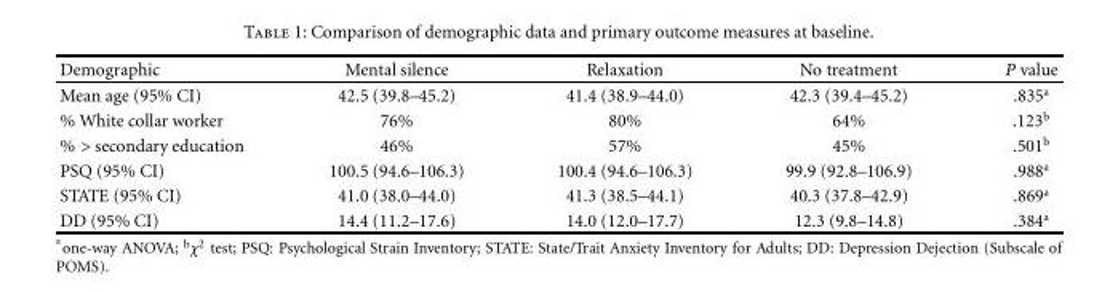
<table><thead><tr><td>Demographic</td><td>Mental silence</td><td>Relaxation</td><td>No treatment</td><td>P value</td></tr></thead><tbody><tr><td>Mean age (95% CI)</td><td>42.5 (39.8–45.2)</td><td>41.4 (38.9–44.0)</td><td>42.3 (39.4–45.2)</td><td>.835<sup>a</sup></td></tr><tr><td>% White collar worker</td><td>76%</td><td>80%</td><td>64%</td><td>.123<sup>b</sup></td></tr><tr><td>% &gt; secondary education</td><td>46%</td><td>57%</td><td>45%</td><td>.501<sup>b</sup></td></tr><tr><td>PSQ (95% CI)</td><td>100.5 (94.6–106.3)</td><td>100.4 (94.6–106.3)</td><td>99.9 (92.8–106.9)</td><td>.988<sup>a</sup></td></tr><tr><td>STATE (95% CI)</td><td>41.0 (38.0–44.0)</td><td>41.3 (38.5–44.1)</td><td>40.3 (37.8–42.9)</td><td>.869<sup>a</sup></td></tr><tr><td>DD (95% CI)</td><td>14.4 (11.2–17.6)</td><td>14.0 (12.0–17.7)</td><td>12.3 (9.8–14.8)</td><td>.384<sup>a</sup></td></tr></tbody></table>